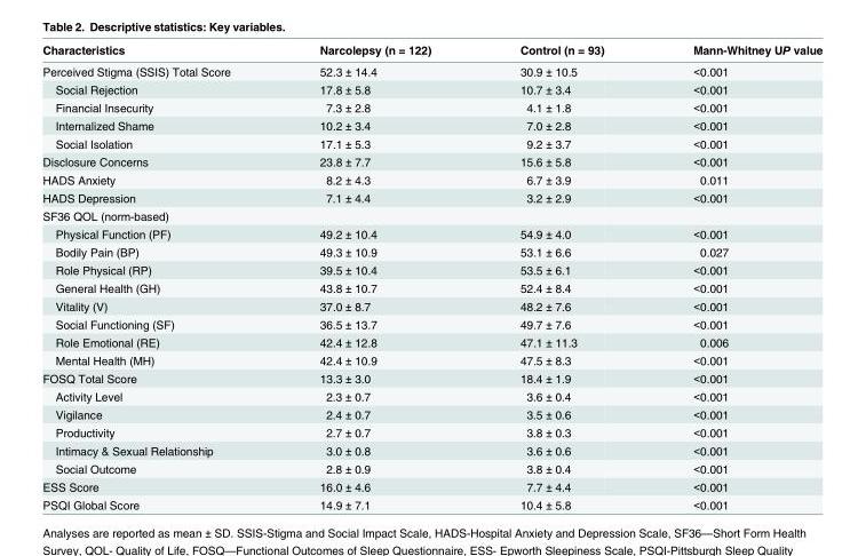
<table><thead><tr><td>Characteristics</td><td>Narcolepsy (n = 122)</td><td>Control (n = 93)</td><td>Mann-Whitney UP value</td></tr></thead><tbody><tr><td>Perceived Stigma (SSIS) Total Score</td><td>52.3 ± 14.4</td><td>30.9 ± 10.5</td><td>&lt;0.001</td></tr><tr><td>Social Rejection</td><td>17.8 ± 5.8</td><td>10.7 ± 3.4</td><td>&lt;0.001</td></tr><tr><td>Financial Insecurity</td><td>7.3 ± 2.8</td><td>4.1 ± 1.8</td><td>&lt;0.001</td></tr><tr><td>Internalized Shame</td><td>10.2 ± 3.4</td><td>7.0 ± 2.8</td><td>&lt;0.001</td></tr><tr><td>Social Isolation</td><td>17.1 ± 5.3</td><td>9.2 ± 3.7</td><td>&lt;0.001</td></tr><tr><td>Disclosure Concerns</td><td>23.8 ± 7.7</td><td>15.6 ± 5.8</td><td>&lt;0.001</td></tr><tr><td>HADS Anxiety</td><td>8.2 ± 4.3</td><td>6.7 ± 3.9</td><td>0.011</td></tr><tr><td>HADS Depression</td><td>7.1 ± 4.4</td><td>3.2 ± 2.9</td><td>&lt;0.001</td></tr><tr><td colspan="4">SF36 QOL (norm-based)</td></tr><tr><td>Physical Function (PF)</td><td>49.2 ± 10.4</td><td>54.9 ± 4.0</td><td>&lt;0.001</td></tr><tr><td>Bodily Pain (BP)</td><td>49.3 ± 10.9</td><td>53.1 ± 6.6</td><td>0.027</td></tr><tr><td>Role Physical (RP)</td><td>39.5 ± 10.4</td><td>53.5 ± 6.1</td><td>&lt;0.001</td></tr><tr><td>General Health (GH)</td><td>43.8 ± 10.7</td><td>52.4 ± 8.4</td><td>&lt;0.001</td></tr><tr><td>Vitality (V)</td><td>37.0 ± 8.7</td><td>48.2 ± 7.6</td><td>&lt;0.001</td></tr><tr><td>Social Functioning (SF)</td><td>36.5 ± 13.7</td><td>49.7 ± 7.6</td><td>&lt;0.001</td></tr><tr><td>Role Emotional (RE)</td><td>42.4 ± 12.8</td><td>47.1 ± 11.3</td><td>0.006</td></tr><tr><td>Mental Health (MH)</td><td>42.4 ± 10.9</td><td>47.5 ± 8.3</td><td>&lt;0.001</td></tr><tr><td>FOSQ Total Score</td><td>13.3 ± 3.0</td><td>18.4 ± 1.9</td><td>&lt;0.001</td></tr><tr><td>Activity Level</td><td>2.3 ± 0.7</td><td>3.6 ± 0.4</td><td>&lt;0.001</td></tr><tr><td>Vigilance</td><td>2.4 ± 0.7</td><td>3.5 ± 0.6</td><td>&lt;0.001</td></tr><tr><td>Productivity</td><td>2.7 ± 0.7</td><td>3.8 ± 0.3</td><td>&lt;0.001</td></tr><tr><td>Intimacy &amp; Sexual Relationship</td><td>3.0 ± 0.8</td><td>3.6 ± 0.6</td><td>&lt;0.001</td></tr><tr><td>Social Outcome</td><td>2.8 ± 0.9</td><td>3.8 ± 0.4</td><td>&lt;0.001</td></tr><tr><td>ESS Score</td><td>16.0 ± 4.6</td><td>7.7 ± 4.4</td><td>&lt;0.001</td></tr><tr><td>PSQI Global Score</td><td>14.9 ± 7.1</td><td>10.4 ± 5.8</td><td>&lt;0.001</td></tr></tbody></table>